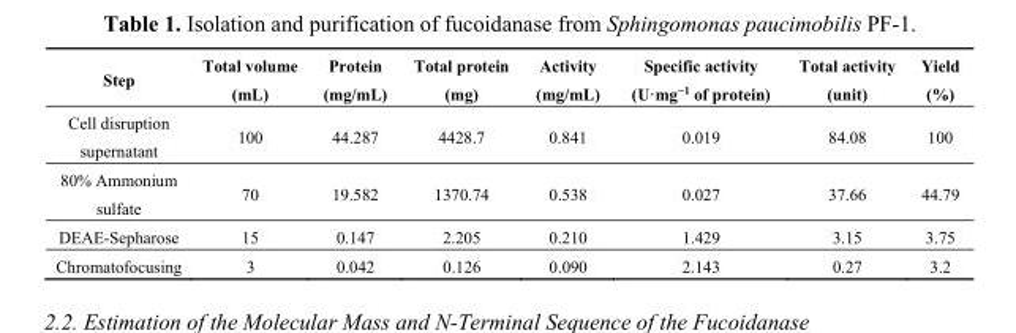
<table><thead><tr><td>Step</td><td>Total volume (mL)</td><td>Protein (mg/mL)</td><td>Total protein (mg)</td><td>Activity (mg/mL)</td><td>Specific activity (U·mg<sup>−1</sup> of protein)</td><td>Total activity (unit)</td><td>Yield (%)</td></tr></thead><tbody><tr><td>Cell disruption supernatant</td><td>100</td><td>44.287</td><td>4428.7</td><td>0.841</td><td>0.019</td><td>84.08</td><td>100</td></tr><tr><td>80% Ammonium sulfate</td><td>70</td><td>19.582</td><td>1370.74</td><td>0.538</td><td>0.027</td><td>37.66</td><td>44.79</td></tr><tr><td>DEAE-Sepharose</td><td>15</td><td>0.147</td><td>2.205</td><td>0.210</td><td>1.429</td><td>3.15</td><td>3.75</td></tr><tr><td>Chromatofocusing</td><td>3</td><td>0.042</td><td>0.126</td><td>0.090</td><td>2.143</td><td>0.27</td><td>3.2</td></tr></tbody></table>